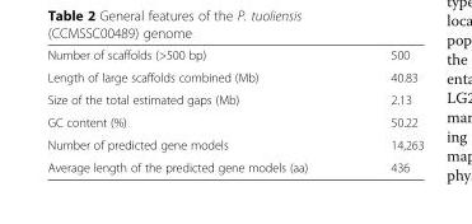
<table><tbody><tr><td>Number of scaffolds (&gt;500 bp)</td><td>500</td></tr><tr><td>Length of large scaffolds combined (Mb)</td><td>40.83</td></tr><tr><td>Size of the total estimated gaps (Mb)</td><td>2.13</td></tr><tr><td>GC content (%)</td><td>50.22</td></tr><tr><td>Number of predicted gene models</td><td>14,263</td></tr><tr><td>Average length of the predicted gene models (aa)</td><td>436</td></tr></tbody></table>